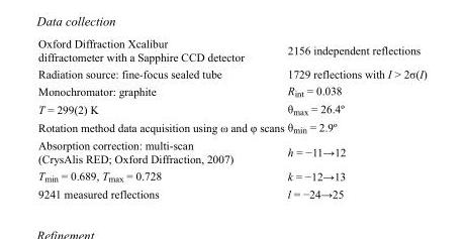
<table><tbody><tr><td>Oxford Diffraction Xcalibur diffractometer with a Sapphire CCD detector</td><td>2156 independent reflections</td></tr><tr><td>Radiation source: fine-focus sealed tube</td><td>1729 reflections with I &gt; 2σ(I)</td></tr><tr><td>Monochromator: graphite</td><td>R<sub>int</sub> = 0.038</td></tr><tr><td>T = 299(2) K</td><td>θ<sub>max</sub> = 26.4º</td></tr><tr><td>Rotation method data acquisition using ω and φ scans</td><td>θ<sub>min</sub> = 2.9º</td></tr><tr><td>Absorption correction: multi-scan (CrysAlis RED; Oxford Diffraction, 2007)</td><td>h = −11→12</td></tr><tr><td>T<sub>min</sub> = 0.689, T<sub>max</sub> = 0.728</td><td>k = −12→13</td></tr><tr><td>9241 measured reflections</td><td>l = −24→25</td></tr></tbody></table>